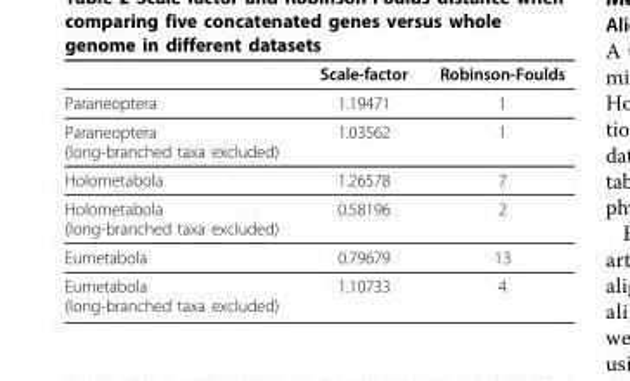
<table><thead><tr><td></td><td>Scale-factor</td><td>Robinson-Foulds</td></tr></thead><tbody><tr><td>Paraneoptera</td><td>1.19471</td><td>1</td></tr><tr><td>Paraneoptera (long-branched taxa excluded)</td><td>1.03562</td><td>1</td></tr><tr><td>Holometabola</td><td>1.26578</td><td>7</td></tr><tr><td>Holometabola (long-branched taxa excluded)</td><td>0.58196</td><td>2</td></tr><tr><td>Eumetabola</td><td>0.79679</td><td>13</td></tr><tr><td>Eumetabola (long-branched taxa excluded)</td><td>1.10733</td><td>4</td></tr></tbody></table>